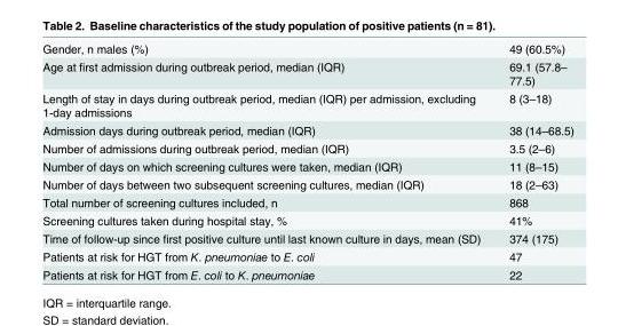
<table><tbody><tr><td>Gender, n males (%)</td><td>49 (60.5%)</td></tr><tr><td>Age at first admission during outbreak period, median (IQR)</td><td>69.1 (57.8– 77.5)</td></tr><tr><td>Length of stay in days during outbreak period, median (IQR) per admission, excluding 1-day admissions</td><td>8 (3–18)</td></tr><tr><td>Admission days during outbreak period, median (IQR)</td><td>38 (14–68.5)</td></tr><tr><td>Number of admissions during outbreak period, median (IQR)</td><td>3.5 (2–6)</td></tr><tr><td>Number of days on which screening cultures were taken, median (IQR)</td><td>11 (8–15)</td></tr><tr><td>Number of days between two subsequent screening cultures, median (IQR)</td><td>18 (2–63)</td></tr><tr><td>Total number of screening cultures included, n</td><td>868</td></tr><tr><td>Screening cultures taken during hospital stay, %</td><td>41%</td></tr><tr><td>Time of follow-up since first positive culture until last known culture in days, mean (SD)</td><td>374 (175)</td></tr><tr><td>Patients at risk for HGT from K. pneumoniae to E. coli</td><td>47</td></tr><tr><td>Patients at risk for HGT from E. coli to K. pneumoniae</td><td>22</td></tr></tbody></table>